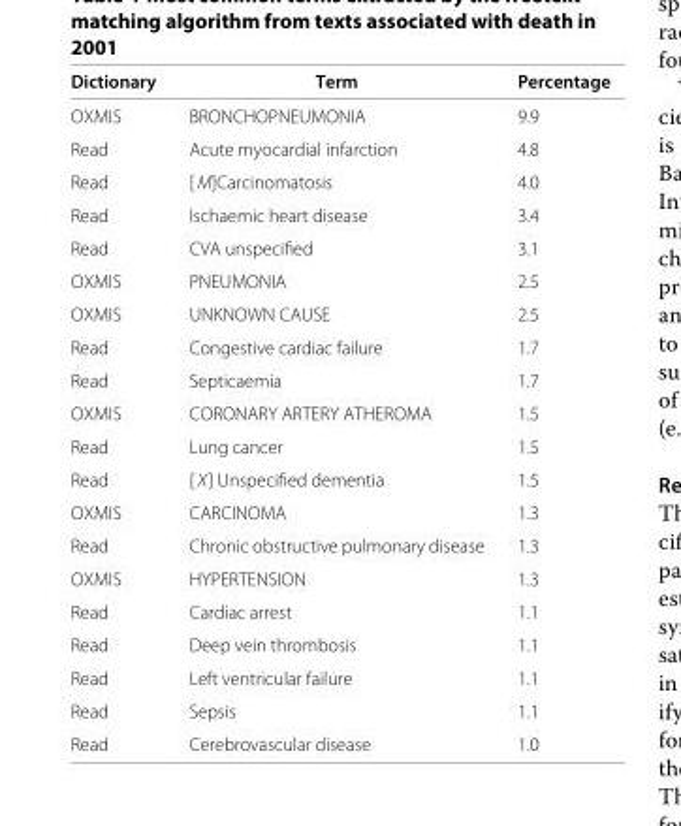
<table><thead><tr><td>Dictionary</td><td>Term</td><td>Percentage</td></tr></thead><tbody><tr><td>OXMIS</td><td>BRONCHOPNEUMONIA</td><td>9.9</td></tr><tr><td>Read</td><td>Acute myocardial infarction</td><td>4.8</td></tr><tr><td>Read</td><td>[ M]Carcinomatosis</td><td>4.0</td></tr><tr><td>Read</td><td>Ischaemic heart disease</td><td>3.4</td></tr><tr><td>Read</td><td>CVA unspecified</td><td>3.1</td></tr><tr><td>OXMIS</td><td>PNEUMONIA</td><td>2.5</td></tr><tr><td>OXMIS</td><td>UNKNOWN CAUSE</td><td>2.5</td></tr><tr><td>Read</td><td>Congestive cardiac failure</td><td>1.7</td></tr><tr><td>Read</td><td>Septicaemia</td><td>1.7</td></tr><tr><td>OXMIS</td><td>CORONARY ARTERY ATHEROMA</td><td>1.5</td></tr><tr><td>Read</td><td>Lung cancer</td><td>1.5</td></tr><tr><td>Read</td><td>[ X] Unspecified dementia</td><td>1.5</td></tr><tr><td>OXMIS</td><td>CARCINOMA</td><td>1.3</td></tr><tr><td>Read</td><td>Chronic obstructive pulmonary disease</td><td>1.3</td></tr><tr><td>OXMIS</td><td>HYPERTENSION</td><td>1.3</td></tr><tr><td>Read</td><td>Cardiac arrest</td><td>1.1</td></tr><tr><td>Read</td><td>Deep vein thrombosis</td><td>1.1</td></tr><tr><td>Read</td><td>Left ventricular failure</td><td>1.1</td></tr><tr><td>Read</td><td>Sepsis</td><td>1.1</td></tr><tr><td>Read</td><td>Cerebrovascular disease</td><td>1.0</td></tr></tbody></table>